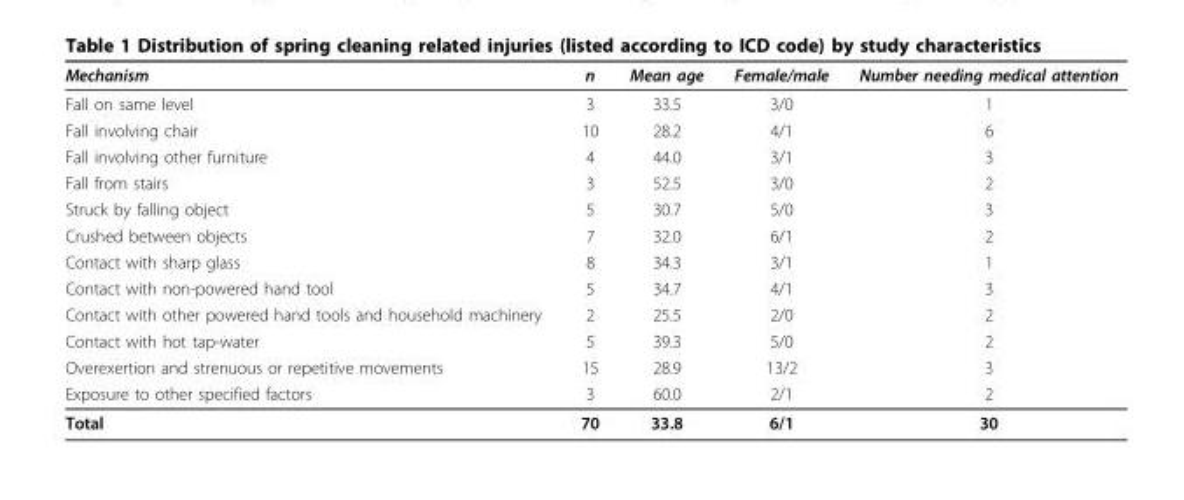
<table><thead><tr><td>Mechanism</td><td>n</td><td>Mean age</td><td>Female/male</td><td>Number needing medical attention</td></tr></thead><tbody><tr><td>Fall on same level</td><td>3</td><td>33.5</td><td>3/0</td><td>1</td></tr><tr><td>Fall involving chair</td><td>10</td><td>28.2</td><td>4/1</td><td>6</td></tr><tr><td>Fall involving other furniture</td><td>4</td><td>44.0</td><td>3/1</td><td>3</td></tr><tr><td>Fall from stairs</td><td>3</td><td>52.5</td><td>3/0</td><td>2</td></tr><tr><td>Struck by falling object</td><td>5</td><td>30.7</td><td>5/0</td><td>3</td></tr><tr><td>Crushed between objects</td><td>7</td><td>32.0</td><td>6/1</td><td>2</td></tr><tr><td>Contact with sharp glass</td><td>8</td><td>34.3</td><td>3/1</td><td>1</td></tr><tr><td>Contact with non-powered hand tool</td><td>5</td><td>34.7</td><td>4/1</td><td>3</td></tr><tr><td>Contact with other powered hand tools and household machinery</td><td>2</td><td>25.5</td><td>2/0</td><td>2</td></tr><tr><td>Contact with hot tap-water</td><td>5</td><td>39.3</td><td>5/0</td><td>2</td></tr><tr><td>Overexertion and strenuous or repetitive movements</td><td>15</td><td>28.9</td><td>13/2</td><td>3</td></tr><tr><td>Exposure to other specified factors</td><td>3</td><td>60.0</td><td>2/1</td><td>2</td></tr><tr><td>Total</td><td>70</td><td>33.8</td><td>6/1</td><td>30</td></tr></tbody></table>